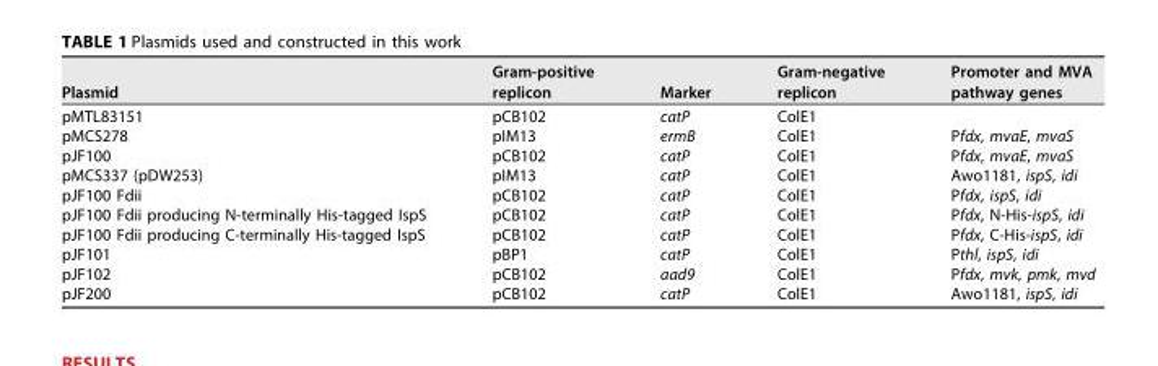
<table><thead><tr><td>Plasmid</td><td>Gram-positive replicon</td><td>Marker</td><td>Gram-negative replicon</td><td>Promoter and MVA pathway genes</td></tr></thead><tbody><tr><td>pMTL83151</td><td>pCB102</td><td>catP</td><td>ColE1</td><td></td></tr><tr><td>pMCS278</td><td>pIM13</td><td>ermB</td><td>ColE1</td><td>Pfdx, mvaE, mvaS</td></tr><tr><td>pJF100</td><td>pCB102</td><td>catP</td><td>ColE1</td><td>Pfdx, mvaE, mvaS</td></tr><tr><td>pMCS337 (pDW253)</td><td>pIM13</td><td>catP</td><td>ColE1</td><td>Awo1181, ispS, idi</td></tr><tr><td>pJF100 Fdii</td><td>pCB102</td><td>catP</td><td>ColE1</td><td>Pfdx, ispS, idi</td></tr><tr><td>pJF100 Fdii producing N-terminally His-tagged IspS</td><td>pCB102</td><td>catP</td><td>ColE1</td><td>Pfdx, N-His-ispS, idi</td></tr><tr><td>pJF100 Fdii producing C-terminally His-tagged IspS</td><td>pCB102</td><td>catP</td><td>ColE1</td><td>Pfdx, C-His-ispS, idi</td></tr><tr><td>pJF101</td><td>pBP1</td><td>catP</td><td>ColE1</td><td>Pthl, ispS, idi</td></tr><tr><td>pJF102</td><td>pCB102</td><td>aad9</td><td>ColE1</td><td>Pfdx, mvk, pmk, mvd</td></tr><tr><td>pJF200</td><td>pCB102</td><td>catP</td><td>ColE1</td><td>Awo1181, ispS, idi</td></tr></tbody></table>